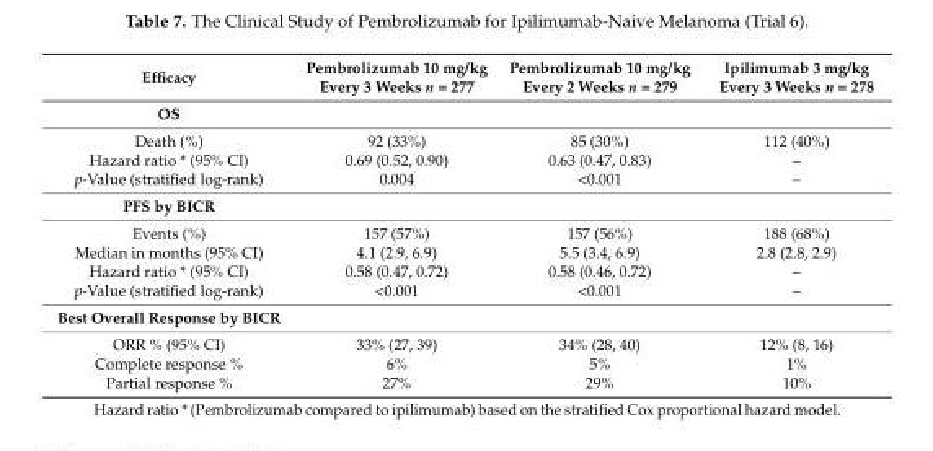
<table><thead><tr><td>Efficacy</td><td>Pembrolizumab 10 mg/kg Every 3 Weeks n = 277</td><td>Pembrolizumab 10 mg/kg Every 2 Weeks n = 279</td><td>Ipilimumab 3 mg/kg Every 3 Weeks n = 278</td></tr></thead><tbody><tr><td colspan="4">OS</td></tr><tr><td>Death (%)</td><td>92 (33%)</td><td>85 (30%)</td><td>112 (40%)</td></tr><tr><td>Hazard ratio * (95% CI)</td><td>0.69 (0.52, 0.90)</td><td>0.63 (0.47, 0.83)</td><td>–</td></tr><tr><td>p-Value (stratified log-rank)</td><td>0.004</td><td>&lt;0.001</td><td>–</td></tr><tr><td colspan="4">PFS by BICR</td></tr><tr><td>Events (%)</td><td>157 (57%)</td><td>157 (56%)</td><td>188 (68%)</td></tr><tr><td>Median in months (95% CI)</td><td>4.1 (2.9, 6.9)</td><td>5.5 (3.4, 6.9)</td><td>2.8 (2.8, 2.9)</td></tr><tr><td>Hazard ratio * (95% CI)</td><td>0.58 (0.47, 0.72)</td><td>0.58 (0.46, 0.72)</td><td>–</td></tr><tr><td>p-Value (stratified log-rank)</td><td>&lt;0.001</td><td>&lt;0.001</td><td>–</td></tr><tr><td colspan="4">Best Overall Response by BICR</td></tr><tr><td>ORR % (95% CI)</td><td>33% (27, 39)</td><td>34% (28, 40)</td><td>12% (8, 16)</td></tr><tr><td>Complete response %</td><td>6%</td><td>5%</td><td>1%</td></tr><tr><td>Partial response %</td><td>27%</td><td>29%</td><td>10%</td></tr></tbody></table>